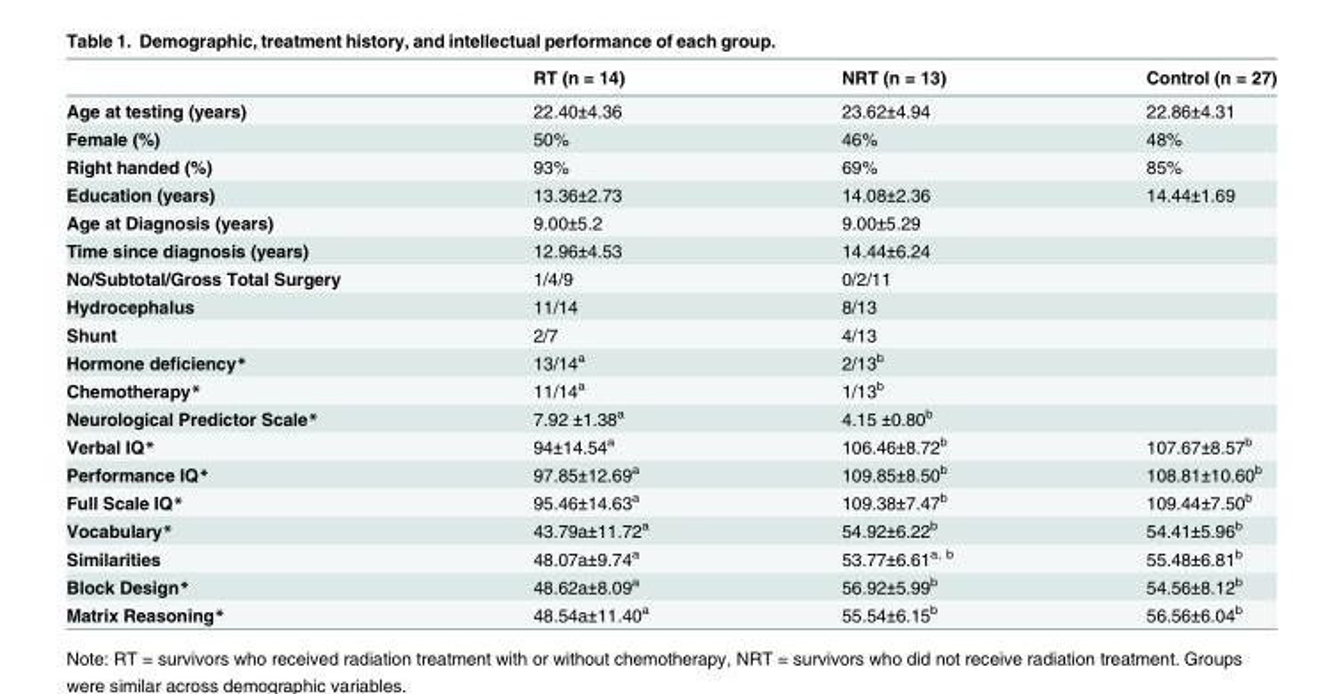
<table><thead><tr><td></td><td>RT (n = 14)</td><td>NRT (n = 13)</td><td>Control (n = 27)</td></tr></thead><tbody><tr><td>Age at testing (years)</td><td>22.40±4.36</td><td>23.62±4.94</td><td>22.86±4.31</td></tr><tr><td>Female (%)</td><td>50%</td><td>46%</td><td>48%</td></tr><tr><td>Right handed (%)</td><td>93%</td><td>69%</td><td>85%</td></tr><tr><td>Education (years)</td><td>13.36±2.73</td><td>14.08±2.36</td><td>14.44±1.69</td></tr><tr><td>Age at Diagnosis (years)</td><td>9.00±5.2</td><td>9.00±5.29</td><td></td></tr><tr><td>Time since diagnosis (years)</td><td>12.96±4.53</td><td>14.44±6.24</td><td></td></tr><tr><td>No/Subtotal/Gross Total Surgery</td><td>1/4/9</td><td>0/2/11</td><td></td></tr><tr><td>Hydrocephalus</td><td>11/14</td><td>8/13</td><td></td></tr><tr><td>Shunt</td><td>2/7</td><td>4/13</td><td></td></tr><tr><td>Hormone deficiency*</td><td>13/14<sup>a</sup></td><td>2/13<sup>b</sup></td><td></td></tr><tr><td>Chemotherapy*</td><td>11/14<sup>a</sup></td><td>1/13<sup>b</sup></td><td></td></tr><tr><td>Neurological Predictor Scale*</td><td>7.92 ±1.38<sup>a</sup></td><td>4.15 ±0.80<sup>b</sup></td><td></td></tr><tr><td>Verbal IQ*</td><td>94±14.54<sup>a</sup></td><td>106.46±8.72<sup>b</sup></td><td>107.67±8.57<sup>b</sup></td></tr><tr><td>Performance IQ*</td><td>97.85±12.69<sup>a</sup></td><td>109.85±8.50<sup>b</sup></td><td>108.81±10.60<sup>b</sup></td></tr><tr><td>Full Scale IQ*</td><td>95.46±14.63<sup>a</sup></td><td>109.38±7.47<sup>b</sup></td><td>109.44±7.50<sup>b</sup></td></tr><tr><td>Vocabulary*</td><td>43.79a±11.72<sup>a</sup></td><td>54.92±6.22<sup>b</sup></td><td>54.41±5.96<sup>b</sup></td></tr><tr><td>Similarities</td><td>48.07a±9.74<sup>a</sup></td><td>53.77±6.61<sup>a, b</sup></td><td>55.48±6.81<sup>b</sup></td></tr><tr><td>Block Design*</td><td>48.62a±8.09<sup>a</sup></td><td>56.92±5.99<sup>b</sup></td><td>54.56±8.12<sup>b</sup></td></tr><tr><td>Matrix Reasoning*</td><td>48.54a±11.40<sup>a</sup></td><td>55.54±6.15<sup>b</sup></td><td>56.56±6.04<sup>b</sup></td></tr></tbody></table>